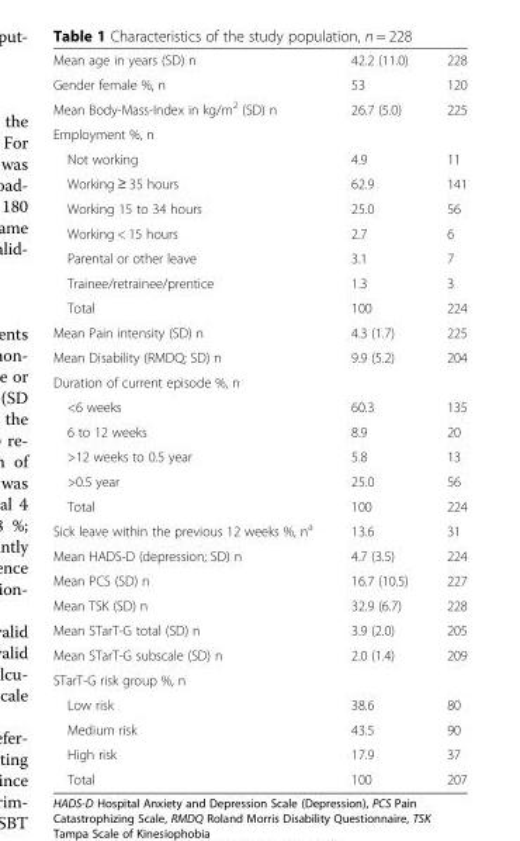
<table><tbody><tr><td>Mean age in years (SD) n</td><td>42.2 (11.0)</td><td>228</td></tr><tr><td>Gender female %, n</td><td>53</td><td>120</td></tr><tr><td>Mean Body-Mass-Index in kg/m<sup>2</sup> (SD) n</td><td>26.7 (5.0)</td><td>225</td></tr><tr><td colspan="3">Employment %, n</td></tr><tr><td>Not working</td><td>4.9</td><td>11</td></tr><tr><td>Working ≥ 35 hours</td><td>62.9</td><td>141</td></tr><tr><td>Working 15 to 34 hours</td><td>25.0</td><td>56</td></tr><tr><td>Working &lt; 15 hours</td><td>2.7</td><td>6</td></tr><tr><td>Parental or other leave</td><td>3.1</td><td>7</td></tr><tr><td>Trainee/retrainee/prentice</td><td>1.3</td><td>3</td></tr><tr><td>Total</td><td>100</td><td>224</td></tr><tr><td>Mean Pain intensity (SD) n</td><td>4.3 (1.7)</td><td>225</td></tr><tr><td>Mean Disability (RMDQ; SD) n</td><td>9.9 (5.2)</td><td>204</td></tr><tr><td colspan="3">Duration of current episode %, n</td></tr><tr><td>&lt;6 weeks</td><td>60.3</td><td>135</td></tr><tr><td>6 to 12 weeks</td><td>8.9</td><td>20</td></tr><tr><td>&gt;12 weeks to 0.5 year</td><td>5.8</td><td>13</td></tr><tr><td>&gt;0.5 year</td><td>25.0</td><td>56</td></tr><tr><td>Total</td><td>100</td><td>224</td></tr><tr><td>Sick leave within the previous 12 weeks %, n<sup>a</sup></td><td>13.6</td><td>31</td></tr><tr><td>Mean HADS-D (depression; SD) n</td><td>4.7 (3.5)</td><td>224</td></tr><tr><td>Mean PCS (SD) n</td><td>16.7 (10.5)</td><td>227</td></tr><tr><td>Mean TSK (SD) n</td><td>32.9 (6.7)</td><td>228</td></tr><tr><td>Mean STarT-G total (SD) n</td><td>3.9 (2.0)</td><td>205</td></tr><tr><td>Mean STarT-G subscale (SD) n</td><td>2.0 (1.4)</td><td>209</td></tr><tr><td colspan="3">STarT-G risk group %, n</td></tr><tr><td>Low risk</td><td>38.6</td><td>80</td></tr><tr><td>Medium risk</td><td>43.5</td><td>90</td></tr><tr><td>High risk</td><td>17.9</td><td>37</td></tr><tr><td>Total</td><td>100</td><td>207</td></tr></tbody></table>